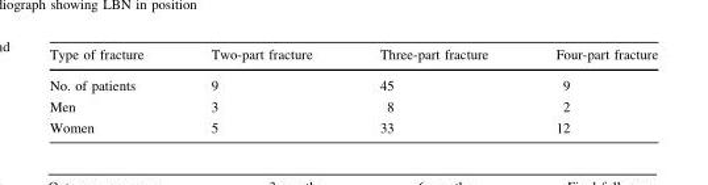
<table><thead><tr><td>Type of fracture</td><td>Two-part fracture</td><td>Three-part fracture</td><td>Four-part fracture</td></tr></thead><tbody><tr><td>No. of patients</td><td>9</td><td>45</td><td>9</td></tr><tr><td>Men</td><td>3</td><td>8</td><td>2</td></tr><tr><td>Women</td><td>5</td><td>33</td><td>12</td></tr></tbody></table>